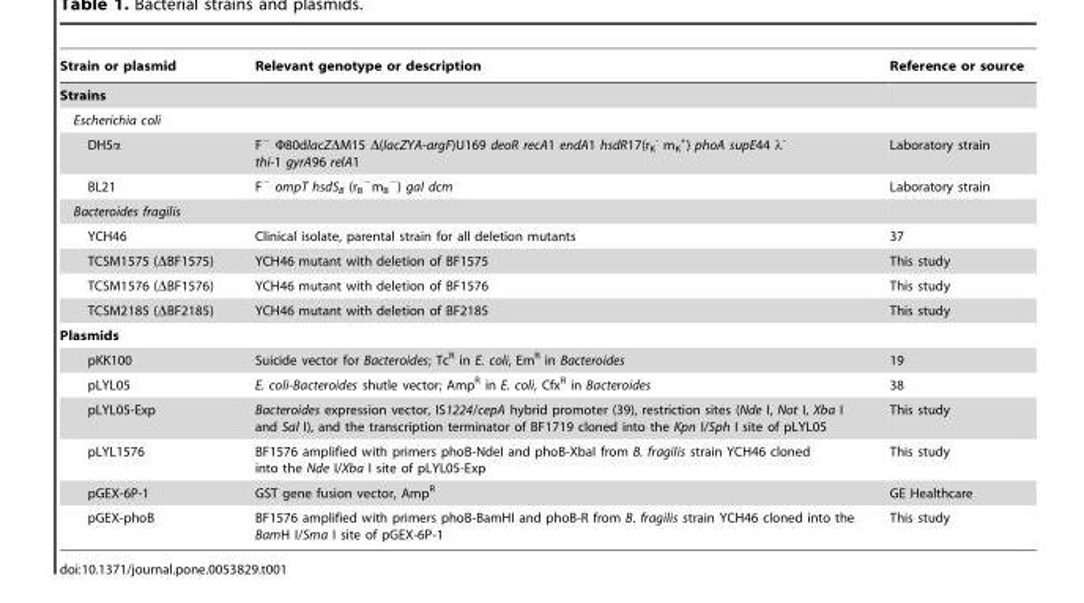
<table><thead><tr><td>Strain or plasmid</td><td>Relevant genotype or description</td><td>Reference or source</td></tr></thead><tbody><tr><td colspan="3">Strains</td></tr><tr><td colspan="3">Escherichia coli</td></tr><tr><td>DH5α</td><td>F<sup>−</sup> Φ80dlacZΔM15 Δ(lacZYA-argF)U169 deoR recA1 endA1 hsdR17(r<sub>K</sub> <sup>-</sup> m<sub>K</sub> <sup>+</sup>) phoA supE44 λ<sup>-</sup> thi-1 gyrA96 relA1</td><td>Laboratory strain</td></tr><tr><td>BL21</td><td>F<sup>−</sup> ompT hsdS<sub>B</sub> (r<sub>B</sub> <sup>−</sup>m<sub>B</sub> <sup>−</sup>) gal dcm</td><td>Laboratory strain</td></tr><tr><td colspan="3">Bacteroides fragilis</td></tr><tr><td>YCH46</td><td>Clinical isolate, parental strain for all deletion mutants</td><td>37</td></tr><tr><td>TCSM1575 (ΔBF1575)</td><td>YCH46 mutant with deletion of BF1575</td><td>This study</td></tr><tr><td>TCSM1576 (ΔBF1576)</td><td>YCH46 mutant with deletion of BF1576</td><td>This study</td></tr><tr><td>TCSM2185 (ΔBF2185)</td><td>YCH46 mutant with deletion of BF2185</td><td>This study</td></tr><tr><td colspan="3">Plasmids</td></tr><tr><td>pKK100</td><td>Suicide vector for Bacteroides; Tc<sup>R</sup> in E. coli, Em<sup>R</sup> in Bacteroides</td><td>19</td></tr><tr><td>pLYL05</td><td>E. coli-Bacteroides shutle vector; Amp<sup>R</sup> in E. coli, Cfx<sup>R</sup> in Bacteroides</td><td>38</td></tr><tr><td>pLYL05-Exp</td><td>Bacteroides expression vector, IS1224/cepA hybrid promoter (39), restriction sites (Nde I, Not I, Xba I and Sal I), and the transcription terminator of BF1719 cloned into the Kpn I/Sph I site of pLYL05</td><td>This study</td></tr><tr><td>pLYL1576</td><td>BF1576 amplified with primers phoB-NdeI and phoB-XbaI from B. fragilis strain YCH46 cloned into the Nde I/Xba I site of pLYL05-Exp</td><td>This study</td></tr><tr><td>pGEX-6P-1</td><td>GST gene fusion vector, Amp<sup>R</sup></td><td>GE Healthcare</td></tr><tr><td>pGEX-phoB</td><td>BF1576 amplified with primers phoB-BamHI and phoB-R from B. fragilis strain YCH46 cloned into the BamH I/Sma I site of pGEX-6P-1</td><td>This study</td></tr></tbody></table>